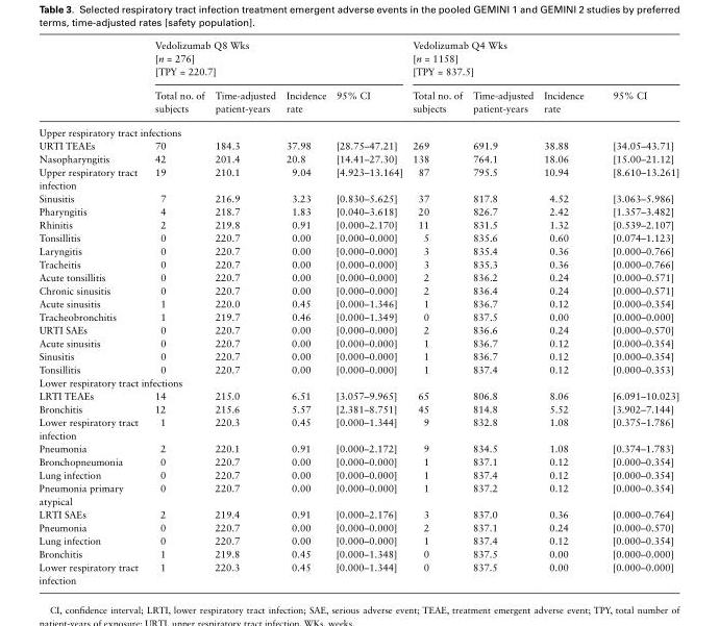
<table><thead><tr><td rowspan="2"></td><td colspan="4">Vedolizumab Q8 Wks [n = 276] [TPY = 220.7]</td><td colspan="4">Vedolizumab Q4 Wks [n = 1158] [TPY = 837.5]</td></tr><tr><td>Total no. of subjects</td><td>Time-adjusted patient-years</td><td>Incidence rate</td><td>95% CI</td><td>Total no. of subjects</td><td>Time-adjusted patient-years</td><td>Incidence rate</td><td>95% CI</td></tr></thead><tbody><tr><td colspan="9">Upper respiratory tract infections</td></tr><tr><td>URTI TEAEs</td><td>70</td><td>184.3</td><td>37.98</td><td>[28.75–47.21]</td><td>269</td><td>691.9</td><td>38.88</td><td>[34.05–43.71]</td></tr><tr><td>Nasopharyngitis</td><td>42</td><td>201.4</td><td>20.8</td><td>[14.41–27.30]</td><td>138</td><td>764.1</td><td>18.06</td><td>[15.00–21.12]</td></tr><tr><td>Upper respiratory tract infection</td><td>19</td><td>210.1</td><td>9.04</td><td>[4.923–13.164]</td><td>87</td><td>795.5</td><td>10.94</td><td>[8.610–13.261]</td></tr><tr><td>Sinusitis</td><td>7</td><td>216.9</td><td>3.23</td><td>[0.830–5.625]</td><td>37</td><td>817.8</td><td>4.52</td><td>[3.063–5.986]</td></tr><tr><td>Pharyngitis</td><td>4</td><td>218.7</td><td>1.83</td><td>[0.040–3.618]</td><td>20</td><td>826.7</td><td>2.42</td><td>[1.357–3.482]</td></tr><tr><td>Rhinitis</td><td>2</td><td>219.8</td><td>0.91</td><td>[0.000–2.170]</td><td>11</td><td>831.5</td><td>1.32</td><td>[0.539–2.107]</td></tr><tr><td>Tonsillitis</td><td>0</td><td>220.7</td><td>0.00</td><td>[0.000–0.000]</td><td>5</td><td>835.6</td><td>0.60</td><td>[0.074–1.123]</td></tr><tr><td>Laryngitis</td><td>0</td><td>220.7</td><td>0.00</td><td>[0.000–0.000]</td><td>3</td><td>835.4</td><td>0.36</td><td>[0.000–0.766]</td></tr><tr><td>Tracheitis</td><td>0</td><td>220.7</td><td>0.00</td><td>[0.000–0.000]</td><td>3</td><td>835.3</td><td>0.36</td><td>[0.000–0.766]</td></tr><tr><td>Acute tonsillitis</td><td>0</td><td>220.7</td><td>0.00</td><td>[0.000–0.000]</td><td>2</td><td>836.2</td><td>0.24</td><td>[0.000–0.571]</td></tr><tr><td>Chronic sinusitis</td><td>0</td><td>220.7</td><td>0.00</td><td>[0.000–0.000]</td><td>2</td><td>836.4</td><td>0.24</td><td>[0.000–0.571]</td></tr><tr><td>Acute sinusitis</td><td>1</td><td>220.0</td><td>0.45</td><td>[0.000–1.346]</td><td>1</td><td>836.7</td><td>0.12</td><td>[0.000–0.354]</td></tr><tr><td>Tracheobronchitis</td><td>1</td><td>219.7</td><td>0.46</td><td>[0.000–1.349]</td><td>0</td><td>837.5</td><td>0.00</td><td>[0.000–0.000]</td></tr><tr><td>URTI SAEs</td><td>0</td><td>220.7</td><td>0.00</td><td>[0.000–0.000]</td><td>2</td><td>836.6</td><td>0.24</td><td>[0.000–0.570]</td></tr><tr><td>Acute sinusitis</td><td>0</td><td>220.7</td><td>0.00</td><td>[0.000–0.000]</td><td>1</td><td>836.7</td><td>0.12</td><td>[0.000–0.354]</td></tr><tr><td>Sinusitis</td><td>0</td><td>220.7</td><td>0.00</td><td>[0.000–0.000]</td><td>1</td><td>836.7</td><td>0.12</td><td>[0.000–0.354]</td></tr><tr><td>Tonsillitis</td><td>0</td><td>220.7</td><td>0.00</td><td>[0.000–0.000]</td><td>1</td><td>837.4</td><td>0.12</td><td>[0.000–0.353]</td></tr><tr><td colspan="9">Lower respiratory tract infections</td></tr><tr><td>LRTI TEAEs</td><td>14</td><td>215.0</td><td>6.51</td><td>[3.057–9.965]</td><td>65</td><td>806.8</td><td>8.06</td><td>[6.091–10.023]</td></tr><tr><td>Bronchitis</td><td>12</td><td>215.6</td><td>5.57</td><td>[2.381–8.751]</td><td>45</td><td>814.8</td><td>5.52</td><td>[3.902–7.144]</td></tr><tr><td>Lower respiratory tract infection</td><td>1</td><td>220.3</td><td>0.45</td><td>[0.000–1.344]</td><td>9</td><td>832.8</td><td>1.08</td><td>[0.375–1.786]</td></tr><tr><td>Pneumonia</td><td>2</td><td>220.1</td><td>0.91</td><td>[0.000–2.172]</td><td>9</td><td>834.5</td><td>1.08</td><td>[0.374–1.783]</td></tr><tr><td>Bronchopneumonia</td><td>0</td><td>220.7</td><td>0.00</td><td>[0.000–0.000]</td><td>1</td><td>837.1</td><td>0.12</td><td>[0.000–0.354]</td></tr><tr><td>Lung infection</td><td>0</td><td>220.7</td><td>0.00</td><td>[0.000–0.000]</td><td>1</td><td>837.4</td><td>0.12</td><td>[0.000–0.354]</td></tr><tr><td>Pneumonia primary atypical</td><td>0</td><td>220.7</td><td>0.00</td><td>[0.000–0.000]</td><td>1</td><td>837.2</td><td>0.12</td><td>[0.000–0.354]</td></tr><tr><td>LRTI SAEs</td><td>2</td><td>219.4</td><td>0.91</td><td>[0.000–2.176]</td><td>3</td><td>837.0</td><td>0.36</td><td>[0.000–0.764]</td></tr><tr><td>Pneumonia</td><td>0</td><td>220.7</td><td>0.00</td><td>[0.000–0.000]</td><td>2</td><td>837.1</td><td>0.24</td><td>[0.000–0.570]</td></tr><tr><td>Lung infection</td><td>0</td><td>220.7</td><td>0.00</td><td>[0.000–0.000]</td><td>1</td><td>837.4</td><td>0.12</td><td>[0.000–0.354]</td></tr><tr><td>Bronchitis</td><td>1</td><td>219.8</td><td>0.45</td><td>[0.000–1.348]</td><td>0</td><td>837.5</td><td>0.00</td><td>[0.000–0.000]</td></tr><tr><td>Lower respiratory tract infection</td><td>1</td><td>220.3</td><td>0.45</td><td>[0.000–1.344]</td><td>0</td><td>837.5</td><td>0.00</td><td>[0.000–0.000]</td></tr></tbody></table>